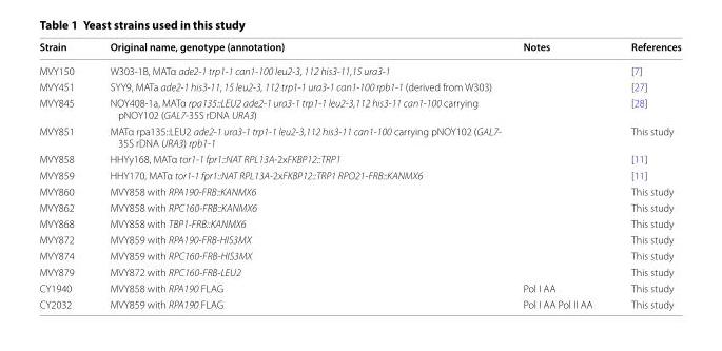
<table><thead><tr><td>Strain</td><td>Original name, genotype (annotation)</td><td>Notes</td><td>References</td></tr></thead><tbody><tr><td>MVY150</td><td>W303-1B, MATα ade2-1 trp1-1 can1-100 leu2-3, 112 his3-11,15 ura3-1</td><td></td><td>[7]</td></tr><tr><td>MVY451</td><td>SYY9, MATa ade2-1 his3-11, 15 leu2-3, 112 trp1-1 ura3-1 can1-100 rpb1-1 (derived from W303)</td><td></td><td>[27]</td></tr><tr><td>MVY845</td><td>NOY408-1a, MATα rpa135::LEU2 ade2-1 ura3-1 trp1-1 leu2-3,112 his3-11 can1-100 carrying pNOY102 (GAL7-35S rDNA URA3)</td><td></td><td>[28]</td></tr><tr><td>MVY851</td><td>MATα rpa135::LEU2 ade2-1 ura3-1 trp1-1 leu2-3,112 his3-11 can1-100 carrying pNOY102 (GAL7- 35S rDNA URA3) rpb1-1</td><td></td><td>This study</td></tr><tr><td>MVY858</td><td>HHYy168, MATα tor1-1 fpr1::NAT RPL13A-2xFKBP12::TRP1</td><td></td><td>[11]</td></tr><tr><td>MVY859</td><td>HHY170, MATα tor1-1 fpr1::NAT RPL13A-2xFKBP12::TRP1 RPO21-FRB::KANMX6</td><td></td><td>[11]</td></tr><tr><td>MVY860</td><td>MVY858 with RPA190-FRB::KANMX6</td><td></td><td>This study</td></tr><tr><td>MVY862</td><td>MVY858 with RPC160-FRB::KANMX6</td><td></td><td>This study</td></tr><tr><td>MVY868</td><td>MVY858 with TBP1-FRB::KANMX6</td><td></td><td>This study</td></tr><tr><td>MVY872</td><td>MVY859 with RPA190-FRB-HIS3MX</td><td></td><td>This study</td></tr><tr><td>MVY874</td><td>MVY859 with RPC160-FRB-HIS3MX</td><td></td><td>This study</td></tr><tr><td>MVY879</td><td>MVY872 with RPC160-FRB-LEU2</td><td></td><td>This study</td></tr><tr><td>CY1940</td><td>MVY858 with RPA190 FLAG</td><td>Pol I AA</td><td>This study</td></tr><tr><td>CY2032</td><td>MVY859 with RPA190 FLAG</td><td>Pol I AA Pol II AA</td><td>This study</td></tr></tbody></table>